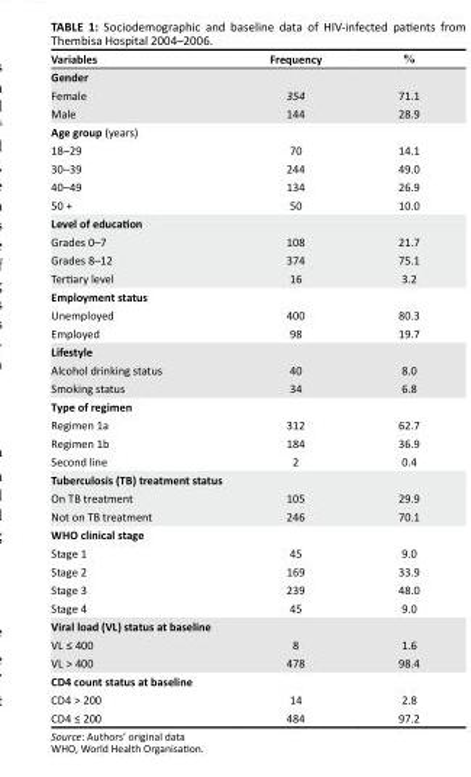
<table><thead><tr><td>Variables</td><td>Frequency</td><td>%</td></tr></thead><tbody><tr><td colspan="3">Gender</td></tr><tr><td>Female</td><td>354</td><td>71.1</td></tr><tr><td>Male</td><td>144</td><td>28.9</td></tr><tr><td colspan="3">Age group (years)</td></tr><tr><td>18–29</td><td>70</td><td>14.1</td></tr><tr><td>30–39</td><td>244</td><td>49.0</td></tr><tr><td>40–49</td><td>134</td><td>26.9</td></tr><tr><td>50 +</td><td>50</td><td>10.0</td></tr><tr><td colspan="3">Level of education</td></tr><tr><td>Grades 0–7</td><td>108</td><td>21.7</td></tr><tr><td>Grades 8–12</td><td>374</td><td>75.1</td></tr><tr><td>Tertiary level</td><td>16</td><td>3.2</td></tr><tr><td colspan="3">Employment status</td></tr><tr><td>Unemployed</td><td>400</td><td>80.3</td></tr><tr><td>Employed</td><td>98</td><td>19.7</td></tr><tr><td colspan="3">Lifestyle</td></tr><tr><td>Alcohol drinking status</td><td>40</td><td>8.0</td></tr><tr><td>Smoking status</td><td>34</td><td>6.8</td></tr><tr><td colspan="3">Type of regimen</td></tr><tr><td>Regimen 1a</td><td>312</td><td>62.7</td></tr><tr><td>Regimen 1b</td><td>184</td><td>36.9</td></tr><tr><td>Second line</td><td>2</td><td>0.4</td></tr><tr><td colspan="3">Tuberculosis (TB) treatment status</td></tr><tr><td>On TB treatment</td><td>105</td><td>29.9</td></tr><tr><td>Not on TB treatment</td><td>246</td><td>70.1</td></tr><tr><td colspan="3">WHO clinical stage</td></tr><tr><td>Stage 1</td><td>45</td><td>9.0</td></tr><tr><td>Stage 2</td><td>169</td><td>33.9</td></tr><tr><td>Stage 3</td><td>239</td><td>48.0</td></tr><tr><td>Stage 4</td><td>45</td><td>9.0</td></tr><tr><td colspan="3">Viral load (VL) status at baseline</td></tr><tr><td>VL ≤ 400</td><td>8</td><td>1.6</td></tr><tr><td>VL &gt; 400</td><td>478</td><td>98.4</td></tr><tr><td colspan="3">CD4 count status at baseline</td></tr><tr><td>CD4 &gt; 200</td><td>14</td><td>2.8</td></tr><tr><td>CD4 ≤ 200</td><td>484</td><td>97.2</td></tr></tbody></table>